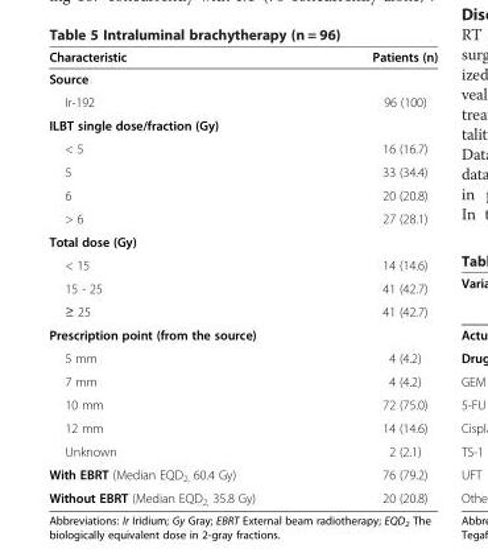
<table><thead><tr><td>Characteristic</td><td>Patients (n)</td></tr></thead><tbody><tr><td colspan="2">Source</td></tr><tr><td>Ir-192</td><td>96 (100)</td></tr><tr><td colspan="2">ILBT single dose/fraction (Gy)</td></tr><tr><td>&lt; 5</td><td>16 (16.7)</td></tr><tr><td>5</td><td>33 (34.4)</td></tr><tr><td>6</td><td>20 (20.8)</td></tr><tr><td>&gt; 6</td><td>27 (28.1)</td></tr><tr><td colspan="2">Total dose (Gy)</td></tr><tr><td>&lt; 15</td><td>14 (14.6)</td></tr><tr><td>15 - 25</td><td>41 (42.7)</td></tr><tr><td>≥ 25</td><td>41 (42.7)</td></tr><tr><td colspan="2">Prescription point (from the source)</td></tr><tr><td>5 mm</td><td>4 (4.2)</td></tr><tr><td>7 mm</td><td>4 (4.2)</td></tr><tr><td>10 mm</td><td>72 (75.0)</td></tr><tr><td>12 mm</td><td>14 (14.6)</td></tr><tr><td>Unknown</td><td>2 (2.1)</td></tr><tr><td>With EBRT (Median EQD<sub>2,</sub> 60.4 Gy)</td><td>76 (79.2)</td></tr><tr><td>Without EBRT (Median EQD<sub>2,</sub> 35.8 Gy)</td><td>20 (20.8)</td></tr></tbody></table>